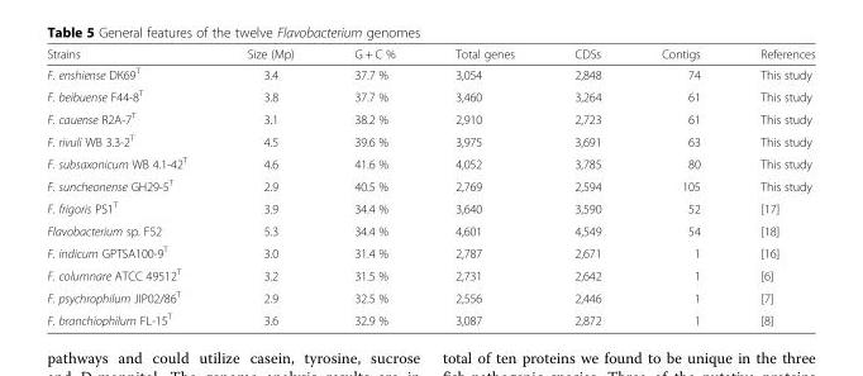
<table><thead><tr><td>Strains</td><td>Size (Mp)</td><td>G + C %</td><td>Total genes</td><td>CDSs</td><td>Contigs</td><td>References</td></tr></thead><tbody><tr><td>F. enshiense DK69<sup>T</sup></td><td>3.4</td><td>37.7 %</td><td>3,054</td><td>2,848</td><td>74</td><td>This study</td></tr><tr><td>F. beibuense F44-8<sup>T</sup></td><td>3.8</td><td>37.7 %</td><td>3,460</td><td>3,264</td><td>61</td><td>This study</td></tr><tr><td>F. cauense R2A-7<sup>T</sup></td><td>3.1</td><td>38.2 %</td><td>2,910</td><td>2,723</td><td>61</td><td>This study</td></tr><tr><td>F. rivuli WB 3.3-2<sup>T</sup></td><td>4.5</td><td>39.6 %</td><td>3,975</td><td>3,691</td><td>63</td><td>This study</td></tr><tr><td>F. subsaxonicum WB 4.1-42<sup>T</sup></td><td>4.6</td><td>41.6 %</td><td>4,052</td><td>3,785</td><td>80</td><td>This study</td></tr><tr><td>F. suncheonense GH29-5<sup>T</sup></td><td>2.9</td><td>40.5 %</td><td>2,769</td><td>2,594</td><td>105</td><td>This study</td></tr><tr><td>F. frigoris PS1<sup>T</sup></td><td>3.9</td><td>34.4 %</td><td>3,640</td><td>3,590</td><td>52</td><td>[17]</td></tr><tr><td>Flavobacterium sp. F52</td><td>5.3</td><td>34.4 %</td><td>4,601</td><td>4,549</td><td>54</td><td>[18]</td></tr><tr><td>F. indicum GPTSA100-9<sup>T</sup></td><td>3.0</td><td>31.4 %</td><td>2,787</td><td>2,671</td><td>1</td><td>[16]</td></tr><tr><td>F. columnare ATCC 49512<sup>T</sup></td><td>3.2</td><td>31.5 %</td><td>2,731</td><td>2,642</td><td>1</td><td>[6]</td></tr><tr><td>F. psychrophilum JIP02/86<sup>T</sup></td><td>2.9</td><td>32.5 %</td><td>2,556</td><td>2,446</td><td>1</td><td>[7]</td></tr><tr><td>F. branchiophilum FL-15<sup>T</sup></td><td>3.6</td><td>32.9 %</td><td>3,087</td><td>2,872</td><td>1</td><td>[8]</td></tr></tbody></table>